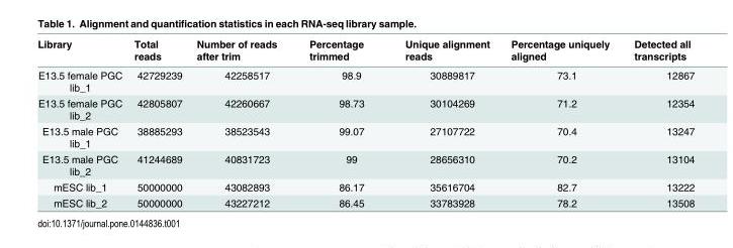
<table><thead><tr><td>Library</td><td>Total reads</td><td>Number of reads after trim</td><td>Percentage trimmed</td><td>Unique alignment reads</td><td>Percentage uniquely aligned</td><td>Detected all transcripts</td></tr></thead><tbody><tr><td>E13.5 female PGC lib_1</td><td>42729239</td><td>42258517</td><td>98.9</td><td>30889817</td><td>73.1</td><td>12867</td></tr><tr><td>E13.5 female PGC lib_2</td><td>42805807</td><td>42260667</td><td>98.73</td><td>30104269</td><td>71.2</td><td>12354</td></tr><tr><td>E13.5 male PGC lib_1</td><td>38885293</td><td>38523543</td><td>99.07</td><td>27107722</td><td>70.4</td><td>13247</td></tr><tr><td>E13.5 male PGC lib_2</td><td>41244689</td><td>40831723</td><td>99</td><td>28656310</td><td>70.2</td><td>13104</td></tr><tr><td>mESC lib_1</td><td>50000000</td><td>43082893</td><td>86.17</td><td>35616704</td><td>82.7</td><td>13222</td></tr><tr><td>mESC lib_2</td><td>50000000</td><td>43227212</td><td>86.45</td><td>33783928</td><td>78.2</td><td>13508</td></tr></tbody></table>